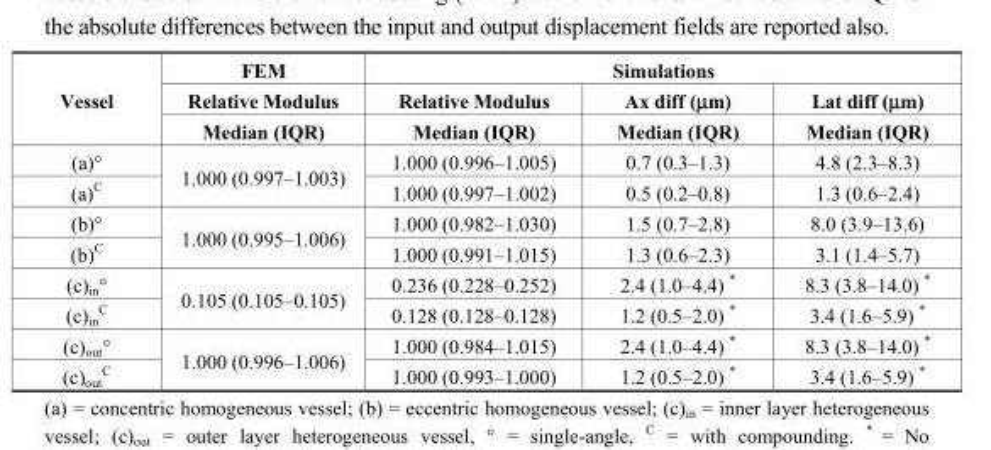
<table><thead><tr><td rowspan="3">Vessel</td><td rowspan="3">FEM Relative Modulus Median (IQR)</td><td colspan="3">Simulations</td></tr><tr><td rowspan="2">Relative Modulus Median (IQR)</td><td rowspan="2">Ax diff (μm) Median (IQR)</td><td rowspan="2">Lat diff (μm) Median (IQR)</td></tr><tr></tr></thead><tbody><tr><td>(a)°</td><td rowspan="2">1.000 (0.997–1.003)</td><td>1.000 (0.996–1.005)</td><td>0.7 (0.3–1.3)</td><td>4.8 (2.3–8.3)</td></tr><tr><td>(a)<sup>C</sup></td><td>1.000 (0.997–1.002)</td><td>0.5 (0.2–0.8)</td><td>1.3 (0.6–2.4)</td></tr><tr><td>(b)°</td><td rowspan="2">1.000 (0.995–1.006)</td><td>1.000 (0.982–1.030)</td><td>1.5 (0.7–2.8)</td><td>8.0 (3.9–13.6)</td></tr><tr><td>(b)<sup>C</sup></td><td>1.000 (0.991–1.015)</td><td>1.3 (0.6–2.3)</td><td>3.1 (1.4–5.7)</td></tr><tr><td>(c)<sub>in</sub>°</td><td rowspan="2">0.105 (0.105–0.105)</td><td>0.236 (0.228–0.252)</td><td>2.4 (1.0–4.4) *</td><td>8.3 (3.8–14.0) *</td></tr><tr><td>(c)<sub>in</sub> <sup>C</sup></td><td>0.128 (0.128–0.128)</td><td>1.2 (0.5–2.0) *</td><td>3.4 (1.6–5.9) *</td></tr><tr><td>(c)<sub>out</sub>°</td><td rowspan="2">1.000 (0.996–1.006)</td><td>1.000 (0.984–1.015)</td><td>2.4 (1.0–4.4) *</td><td>8.3 (3.8–14.0) *</td></tr><tr><td>(c)<sub>out</sub> <sup>C</sup></td><td>1.000 (0.993–1.000)</td><td>1.2 (0.5–2.0) *</td><td>3.4 (1.6–5.9) *</td></tr></tbody></table>